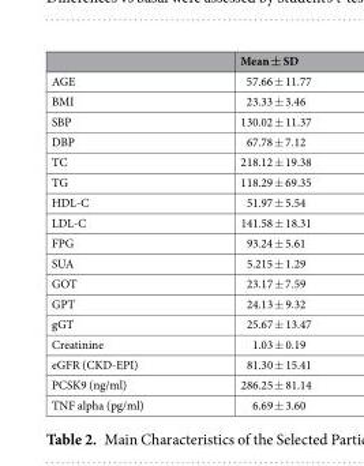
<table><thead><tr><td></td><td>Mean ± SD</td></tr></thead><tbody><tr><td>AGE</td><td>57.66 ± 11.77</td></tr><tr><td>BMI</td><td>23.33 ± 3.46</td></tr><tr><td>SBP</td><td>130.02 ± 11.37</td></tr><tr><td>DBP</td><td>67.78 ± 7.12</td></tr><tr><td>TC</td><td>218.12 ± 19.38</td></tr><tr><td>TG</td><td>118.29 ± 69.35</td></tr><tr><td>HDL-C</td><td>51.97 ± 5.54</td></tr><tr><td>LDL-C</td><td>141.58 ± 18.31</td></tr><tr><td>FPG</td><td>93.24 ± 5.61</td></tr><tr><td>SUA</td><td>5.215 ± 1.29</td></tr><tr><td>GOT</td><td>23.17 ± 7.59</td></tr><tr><td>GPT</td><td>24.13 ± 9.32</td></tr><tr><td>gGT</td><td>25.67 ± 13.47</td></tr><tr><td>Creatinine</td><td>1.03 ± 0.19</td></tr><tr><td>eGFR (CKD-EPI)</td><td>81.30 ± 15.41</td></tr><tr><td>PCSK9 (ng/ml)</td><td>286.25 ± 81.14</td></tr><tr><td>TNF alpha (pg/ml)</td><td>6.69 ± 3.60</td></tr></tbody></table>